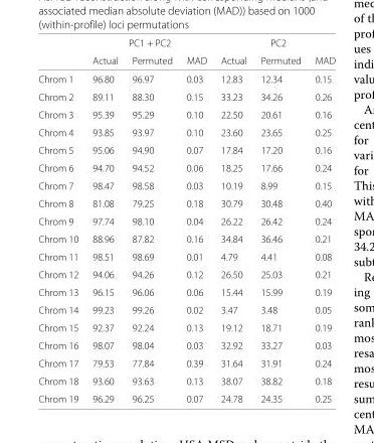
<table><thead><tr><td rowspan="2"></td><td colspan="3">PC1 + PC2</td><td colspan="3">PC2</td></tr><tr><td>Actual</td><td>Permuted</td><td>MAD</td><td>Actual</td><td>Permuted</td><td>MAD</td></tr></thead><tbody><tr><td>Chrom 1</td><td>96.80</td><td>96.97</td><td>0.03</td><td>12.83</td><td>12.34</td><td>0.15</td></tr><tr><td>Chrom 2</td><td>89.11</td><td>88.30</td><td>0.15</td><td>33.23</td><td>34.26</td><td>0.26</td></tr><tr><td>Chrom 3</td><td>95.39</td><td>95.29</td><td>0.10</td><td>22.50</td><td>20.61</td><td>0.16</td></tr><tr><td>Chrom 4</td><td>93.85</td><td>93.97</td><td>0.10</td><td>23.60</td><td>23.65</td><td>0.25</td></tr><tr><td>Chrom 5</td><td>95.06</td><td>94.90</td><td>0.07</td><td>17.84</td><td>17.20</td><td>0.16</td></tr><tr><td>Chrom 6</td><td>94.70</td><td>94.52</td><td>0.06</td><td>18.25</td><td>17.66</td><td>0.24</td></tr><tr><td>Chrom 7</td><td>98.47</td><td>98.58</td><td>0.03</td><td>10.19</td><td>8.99</td><td>0.15</td></tr><tr><td>Chrom 8</td><td>81.08</td><td>79.25</td><td>0.18</td><td>30.79</td><td>30.48</td><td>0.40</td></tr><tr><td>Chrom 9</td><td>97.74</td><td>98.10</td><td>0.04</td><td>26.22</td><td>26.42</td><td>0.24</td></tr><tr><td>Chrom 10</td><td>88.96</td><td>87.82</td><td>0.16</td><td>34.84</td><td>36.46</td><td>0.21</td></tr><tr><td>Chrom 11</td><td>98.51</td><td>98.69</td><td>0.01</td><td>4.79</td><td>4.41</td><td>0.08</td></tr><tr><td>Chrom 12</td><td>94.06</td><td>94.26</td><td>0.12</td><td>26.50</td><td>25.03</td><td>0.21</td></tr><tr><td>Chrom 13</td><td>96.15</td><td>96.06</td><td>0.06</td><td>15.44</td><td>15.99</td><td>0.19</td></tr><tr><td>Chrom 14</td><td>99.23</td><td>99.26</td><td>0.02</td><td>3.47</td><td>3.48</td><td>0.05</td></tr><tr><td>Chrom 15</td><td>92.37</td><td>92.24</td><td>0.13</td><td>19.12</td><td>18.71</td><td>0.19</td></tr><tr><td>Chrom 16</td><td>98.07</td><td>98.04</td><td>0.03</td><td>32.92</td><td>33.27</td><td>0.03</td></tr><tr><td>Chrom 17</td><td>79.53</td><td>77.84</td><td>0.39</td><td>31.64</td><td>31.91</td><td>0.24</td></tr><tr><td>Chrom 18</td><td>93.60</td><td>93.63</td><td>0.13</td><td>38.07</td><td>38.82</td><td>0.18</td></tr><tr><td>Chrom 19</td><td>96.29</td><td>96.25</td><td>0.07</td><td>24.78</td><td>24.35</td><td>0.25</td></tr></tbody></table>